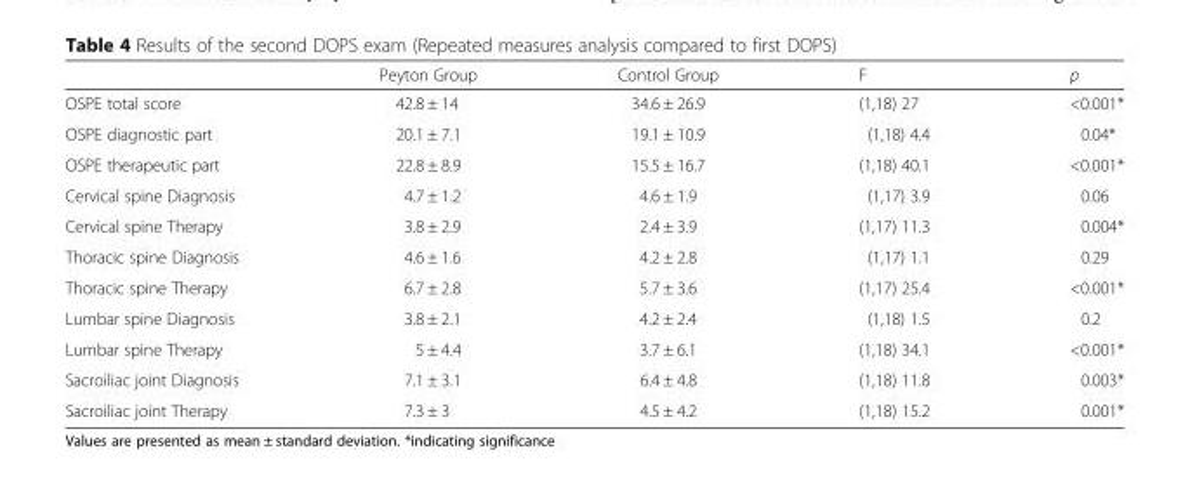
<table><thead><tr><td></td><td>Peyton Group</td><td>Control Group</td><td>F</td><td>p</td></tr></thead><tbody><tr><td>OSPE total score</td><td>42.8 ± 14</td><td>34.6 ± 26.9</td><td>(1,18) 27</td><td>&lt;0.001*</td></tr><tr><td>OSPE diagnostic part</td><td>20.1 ± 7.1</td><td>19.1 ± 10.9</td><td>(1,18) 4.4</td><td>0.04*</td></tr><tr><td>OSPE therapeutic part</td><td>22.8 ± 8.9</td><td>15.5 ± 16.7</td><td>(1,18) 40.1</td><td>&lt;0.001*</td></tr><tr><td>Cervical spine Diagnosis</td><td>4.7 ± 1.2</td><td>4.6 ± 1.9</td><td>(1,17) 3.9</td><td>0.06</td></tr><tr><td>Cervical spine Therapy</td><td>3.8 ± 2.9</td><td>2.4 ± 3.9</td><td>(1,17) 11.3</td><td>0.004*</td></tr><tr><td>Thoracic spine Diagnosis</td><td>4.6 ± 1.6</td><td>4.2 ± 2.8</td><td>(1,17) 1.1</td><td>0.29</td></tr><tr><td>Thoracic spine Therapy</td><td>6.7 ± 2.8</td><td>5.7 ± 3.6</td><td>(1,17) 25.4</td><td>&lt;0.001*</td></tr><tr><td>Lumbar spine Diagnosis</td><td>3.8 ± 2.1</td><td>4.2 ± 2.4</td><td>(1,18) 1.5</td><td>0.2</td></tr><tr><td>Lumbar spine Therapy</td><td>5 ± 4.4</td><td>3.7 ± 6.1</td><td>(1,18) 34.1</td><td>&lt;0.001*</td></tr><tr><td>Sacroiliac joint Diagnosis</td><td>7.1 ± 3.1</td><td>6.4 ± 4.8</td><td>(1,18) 11.8</td><td>0.003*</td></tr><tr><td>Sacroiliac joint Therapy</td><td>7.3 ± 3</td><td>4.5 ± 4.2</td><td>(1,18) 15.2</td><td>0.001*</td></tr></tbody></table>